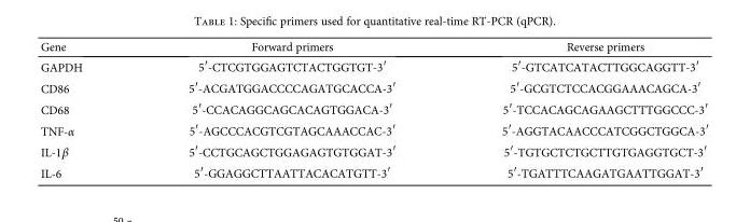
<table><thead><tr><td>Gene</td><td>Forward primers</td><td>Reverse primers</td></tr></thead><tbody><tr><td>GAPDH</td><td>5′-CTCGTGGAGTCTACTGGTGT-3′</td><td>5′-GTCATCATACTTGGCAGGTT-3′</td></tr><tr><td>CD86</td><td>5′-ACGATGGACCCCAGATGCACCA-3′</td><td>5′-GCGTCTCCACGGAAACAGCA-3′</td></tr><tr><td>CD68</td><td>5′-CCACAGGCAGCACAGTGGACA-3′</td><td>5′-TCCACAGCAGAAGCTTTGGCCC-3′</td></tr><tr><td>TNF-α</td><td>5′-AGCCCACGTCGTAGCAAACCAC-3′</td><td>5′-AGGTACAACCCATCGGCTGGCA-3′</td></tr><tr><td>IL-1β</td><td>5′-CCTGCAGCTGGAGAGTGTGGAT-3′</td><td>5′-TGTGCTCTGCTTGTGAGGTGCT-3′</td></tr><tr><td>IL-6</td><td>5′-GGAGGCTTAATTACACATGTT-3′</td><td>5′-TGATTTCAAGATGAATTGGAT-3′</td></tr></tbody></table>